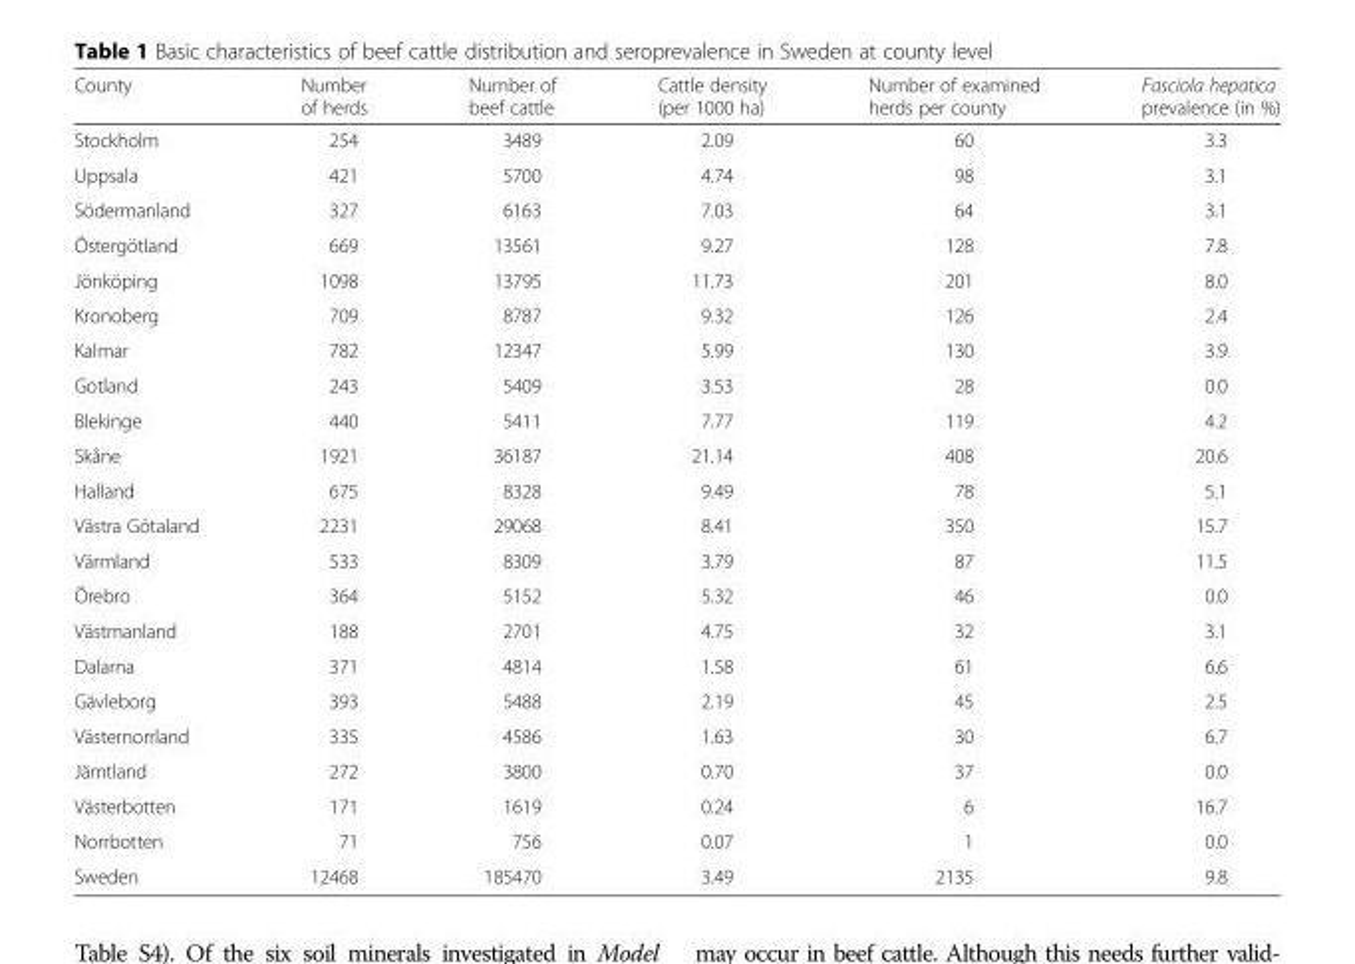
<table><thead><tr><td>County</td><td>Number of herds</td><td>Number of beef cattle</td><td>Cattle density (per 1000 ha)</td><td>Number of examined herds per county</td><td>Fasciola hepatica prevalence (in %)</td></tr></thead><tbody><tr><td>Stockholm</td><td>254</td><td>3489</td><td>2.09</td><td>60</td><td>3.3</td></tr><tr><td>Uppsala</td><td>421</td><td>5700</td><td>4.74</td><td>98</td><td>3.1</td></tr><tr><td>Södermanland</td><td>327</td><td>6163</td><td>7.03</td><td>64</td><td>3.1</td></tr><tr><td>Östergötland</td><td>669</td><td>13561</td><td>9.27</td><td>128</td><td>7.8</td></tr><tr><td>Jönköping</td><td>1098</td><td>13795</td><td>11.73</td><td>201</td><td>8.0</td></tr><tr><td>Kronoberg</td><td>709</td><td>8787</td><td>9.32</td><td>126</td><td>2.4</td></tr><tr><td>Kalmar</td><td>782</td><td>12347</td><td>5.99</td><td>130</td><td>3.9</td></tr><tr><td>Gotland</td><td>243</td><td>5409</td><td>3.53</td><td>28</td><td>0.0</td></tr><tr><td>Blekinge</td><td>440</td><td>5411</td><td>7.77</td><td>119</td><td>4.2</td></tr><tr><td>Skåne</td><td>1921</td><td>36187</td><td>21.14</td><td>408</td><td>20.6</td></tr><tr><td>Halland</td><td>675</td><td>8328</td><td>9.49</td><td>78</td><td>5.1</td></tr><tr><td>Västra Götaland</td><td>2231</td><td>29068</td><td>8.41</td><td>350</td><td>15.7</td></tr><tr><td>Värmland</td><td>533</td><td>8309</td><td>3.79</td><td>87</td><td>11.5</td></tr><tr><td>Örebro</td><td>364</td><td>5152</td><td>5.32</td><td>46</td><td>0.0</td></tr><tr><td>Västmanland</td><td>188</td><td>2701</td><td>4.75</td><td>32</td><td>3.1</td></tr><tr><td>Dalarna</td><td>371</td><td>4814</td><td>1.58</td><td>61</td><td>6.6</td></tr><tr><td>Gävleborg</td><td>393</td><td>5488</td><td>2.19</td><td>45</td><td>2.5</td></tr><tr><td>Västernorrland</td><td>335</td><td>4586</td><td>1.63</td><td>30</td><td>6.7</td></tr><tr><td>Jämtland</td><td>272</td><td>3800</td><td>0.70</td><td>37</td><td>0.0</td></tr><tr><td>Västerbotten</td><td>171</td><td>1619</td><td>0.24</td><td>6</td><td>16.7</td></tr><tr><td>Norrbotten</td><td>71</td><td>756</td><td>0.07</td><td>1</td><td>0.0</td></tr><tr><td>Sweden</td><td>12468</td><td>185470</td><td>3.49</td><td>2135</td><td>9.8</td></tr></tbody></table>